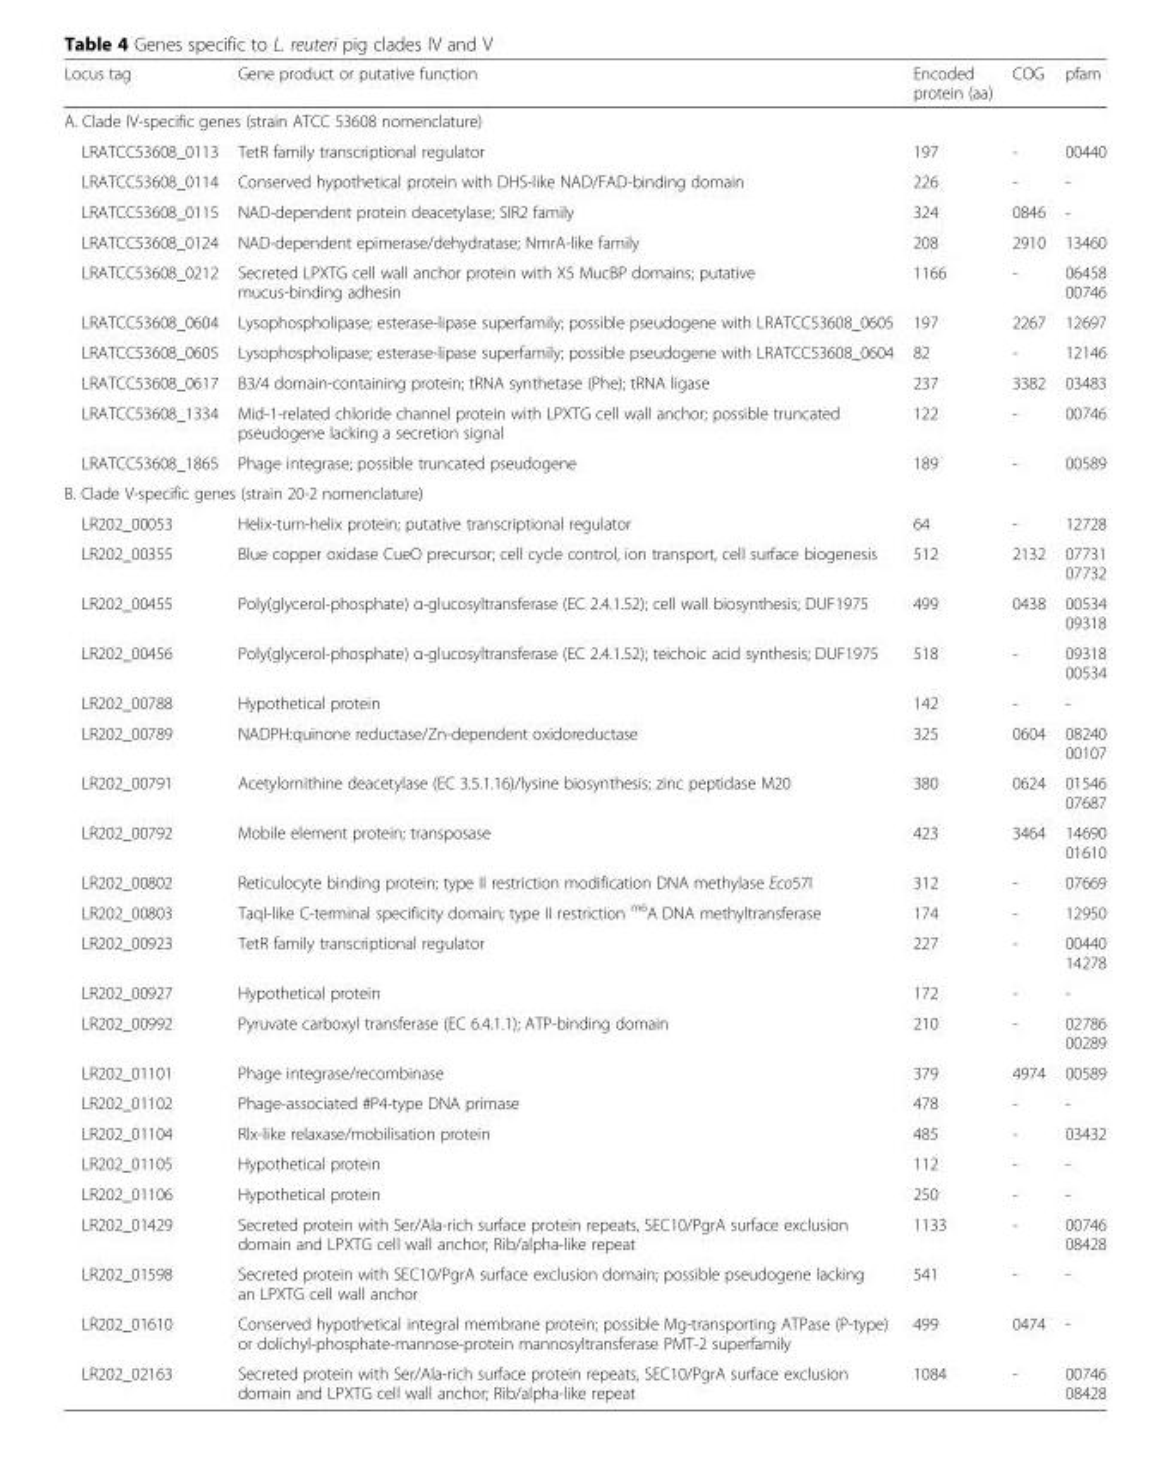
<table><thead><tr><td>Locus tag</td><td>Gene product or putative function</td><td>Encoded protein (aa)</td><td>COG</td><td>pfam</td></tr></thead><tbody><tr><td colspan="5">A. Clade IV-specific genes (strain ATCC 53608 nomenclature)</td></tr><tr><td>LRATCC53608_0113</td><td>TetR family transcriptional regulator</td><td>197</td><td>-</td><td>00440</td></tr><tr><td>LRATCC53608_0114</td><td>Conserved hypothetical protein with DHS-like NAD/FAD-binding domain</td><td>226</td><td>-</td><td>-</td></tr><tr><td>LRATCC53608_0115</td><td>NAD-dependent protein deacetylase; SIR2 family</td><td>324</td><td>0846</td><td>-</td></tr><tr><td>LRATCC53608_0124</td><td>NAD-dependent epimerase/dehydratase; NmrA-like family</td><td>208</td><td>2910</td><td>13460</td></tr><tr><td>LRATCC53608_0212</td><td>Secreted LPXTG cell wall anchor protein with X5 MucBP domains; putative mucus-binding adhesin</td><td>1166</td><td>-</td><td>06458 00746</td></tr><tr><td>LRATCC53608_0604</td><td>Lysophospholipase; esterase-lipase superfamily; possible pseudogene with LRATCC53608_0605</td><td>197</td><td>2267</td><td>12697</td></tr><tr><td>LRATCC53608_0605</td><td>Lysophospholipase; esterase-lipase superfamily; possible pseudogene with LRATCC53608_0604</td><td>82</td><td>-</td><td>12146</td></tr><tr><td>LRATCC53608_0617</td><td>B3/4 domain-containing protein; tRNA synthetase (Phe); tRNA ligase</td><td>237</td><td>3382</td><td>03483</td></tr><tr><td>LRATCC53608_1334</td><td>Mid-1-related chloride channel protein with LPXTG cell wall anchor; possible truncated pseudogene lacking a secretion signal</td><td>122</td><td>-</td><td>00746</td></tr><tr><td>LRATCC53608_1865</td><td>Phage integrase; possible truncated pseudogene</td><td>189</td><td>-</td><td>00589</td></tr><tr><td colspan="5">B. Clade V-specific genes (strain 20-2 nomenclature)</td></tr><tr><td>LR202_00053</td><td>Helix-turn-helix protein; putative transcriptional regulator</td><td>64</td><td>-</td><td>12728</td></tr><tr><td>LR202_00355</td><td>Blue copper oxidase CueO precursor; cell cycle control, ion transport, cell surface biogenesis</td><td>512</td><td>2132</td><td>07731 07732</td></tr><tr><td>LR202_00455</td><td>Poly(glycerol-phosphate) α-glucosyltransferase (EC 2.4.1.52); cell wall biosynthesis; DUF1975</td><td>499</td><td>0438</td><td>00534 09318</td></tr><tr><td>LR202_00456</td><td>Poly(glycerol-phosphate) α-glucosyltransferase (EC 2.4.1.52); teichoic acid synthesis; DUF1975</td><td>518</td><td>-</td><td>09318 00534</td></tr><tr><td>LR202_00788</td><td>Hypothetical protein</td><td>142</td><td>-</td><td>-</td></tr><tr><td>LR202_00789</td><td>NADPH:quinone reductase/Zn-dependent oxidoreductase</td><td>325</td><td>0604</td><td>08240 00107</td></tr><tr><td>LR202_00791</td><td>Acetylornithine deacetylase (EC 3.5.1.16)/lysine biosynthesis; zinc peptidase M20</td><td>380</td><td>0624</td><td>01546 07687</td></tr><tr><td>LR202_00792</td><td>Mobile element protein; transposase</td><td>423</td><td>3464</td><td>14690 01610</td></tr><tr><td>LR202_00802</td><td>Reticulocyte binding protein; type II restriction modification DNA methylase Eco57I</td><td>312</td><td>-</td><td>07669</td></tr><tr><td>LR202_00803</td><td>TaqI-like C-terminal specificity domain; type II restriction <sup>m6</sup>A DNA methyltransferase</td><td>174</td><td>-</td><td>12950</td></tr><tr><td>LR202_00923</td><td>TetR family transcriptional regulator</td><td>227</td><td>-</td><td>00440 14278</td></tr><tr><td>LR202_00927</td><td>Hypothetical protein</td><td>172</td><td>-</td><td>-</td></tr><tr><td>LR202_00992</td><td>Pyruvate carboxyl transferase (EC 6.4.1.1); ATP-binding domain</td><td>210</td><td>-</td><td>02786 00289</td></tr><tr><td>LR202_01101</td><td>Phage integrase/recombinase</td><td>379</td><td>4974</td><td>00589</td></tr><tr><td>LR202_01102</td><td>Phage-associated #P4-type DNA primase</td><td>478</td><td>-</td><td>-</td></tr><tr><td>LR202_01104</td><td>Rlx-like relaxase/mobilisation protein</td><td>485</td><td>-</td><td>03432</td></tr><tr><td>LR202_01105</td><td>Hypothetical protein</td><td>112</td><td>-</td><td>-</td></tr><tr><td>LR202_01106</td><td>Hypothetical protein</td><td>250</td><td>-</td><td>-</td></tr><tr><td>LR202_01429</td><td>Secreted protein with Ser/Ala-rich surface protein repeats, SEC10/PgrA surface exclusion domain and LPXTG cell wall anchor; Rib/alpha-like repeat</td><td>1133</td><td>-</td><td>00746 08428</td></tr><tr><td>LR202_01598</td><td>Secreted protein with SEC10/PgrA surface exclusion domain; possible pseudogene lacking an LPXTG cell wall anchor</td><td>541</td><td>-</td><td>-</td></tr><tr><td>LR202_01610</td><td>Conserved hypothetical integral membrane protein; possible Mg-transporting ATPase (P-type) or dolichyl-phosphate-mannose-protein mannosyltransferase PMT-2 superfamily</td><td>499</td><td>0474</td><td>-</td></tr><tr><td>LR202_02163</td><td>Secreted protein with Ser/Ala-rich surface protein repeats, SEC10/PgrA surface exclusion domain and LPXTG cell wall anchor; Rib/alpha-like repeat</td><td>1084</td><td>-</td><td>00746 08428</td></tr></tbody></table>